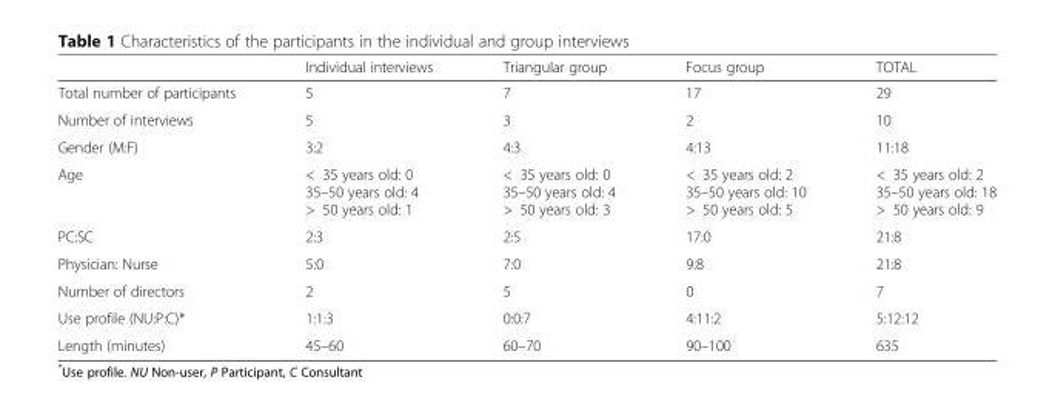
<table><thead><tr><td></td><td>Individual interviews</td><td>Triangular group</td><td>Focus group</td><td>TOTAL</td></tr></thead><tbody><tr><td>Total number of participants</td><td>5</td><td>7</td><td>17</td><td>29</td></tr><tr><td>Number of interviews</td><td>5</td><td>3</td><td>2</td><td>10</td></tr><tr><td>Gender (M:F)</td><td>3:2</td><td>4:3</td><td>4:13</td><td>11:18</td></tr><tr><td>Age</td><td>&lt; 35 years old: 0 35–50 years old: 4 &gt; 50 years old: 1</td><td>&lt; 35 years old: 0 35–50 years old: 4 &gt; 50 years old: 3</td><td>&lt; 35 years old: 2 35–50 years old: 10 &gt; 50 years old: 5</td><td>&lt; 35 years old: 2 35–50 years old: 18 &gt; 50 years old: 9</td></tr><tr><td>PC:SC</td><td>2:3</td><td>2:5</td><td>17:0</td><td>21:8</td></tr><tr><td>Physician: Nurse</td><td>5:0</td><td>7:0</td><td>9:8</td><td>21:8</td></tr><tr><td>Number of directors</td><td>2</td><td>5</td><td>0</td><td>7</td></tr><tr><td>Use profile (NU:P:C)*</td><td>1:1:3</td><td>0:0:7</td><td>4:11:2</td><td>5:12:12</td></tr><tr><td>Length (minutes)</td><td>45–60</td><td>60–70</td><td>90–100</td><td>635</td></tr></tbody></table>